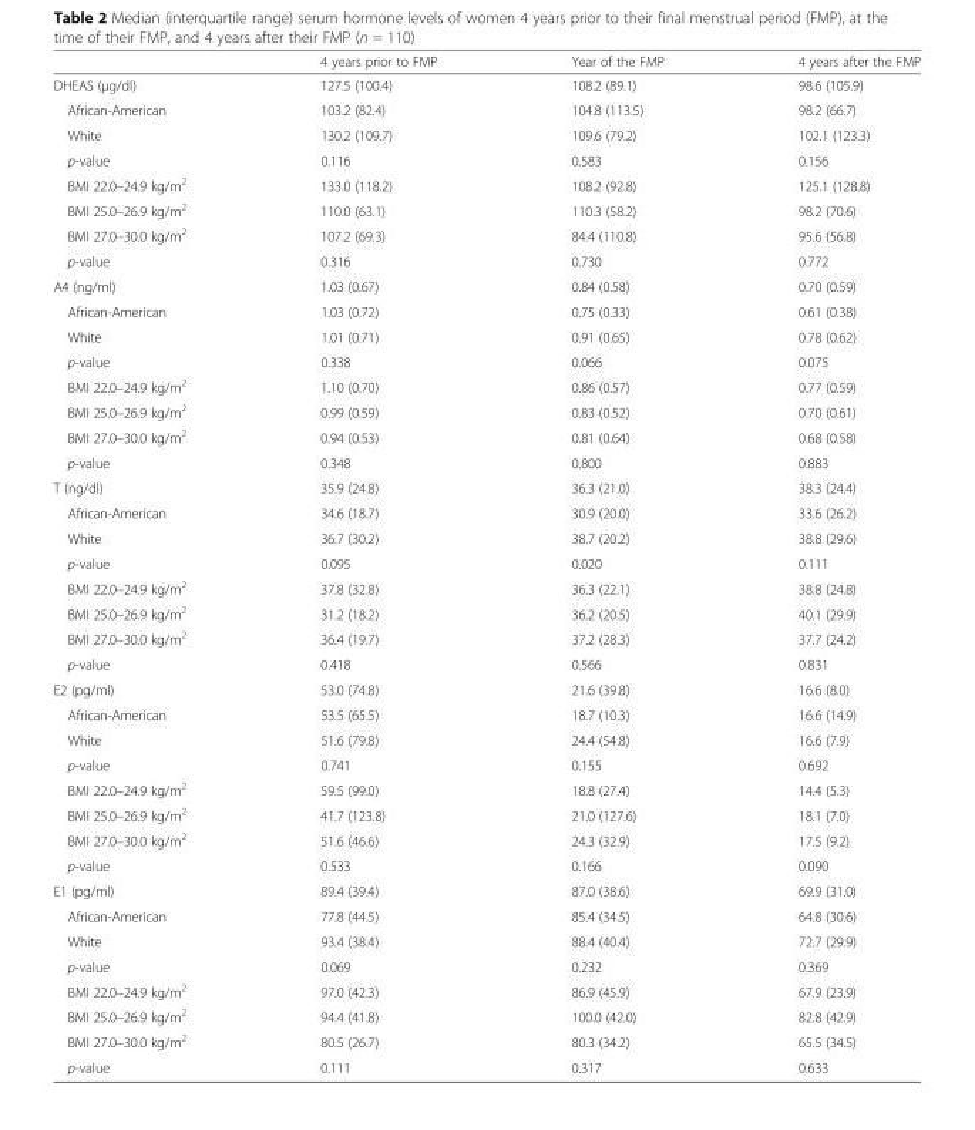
<table><thead><tr><td></td><td>4 years prior to FMP</td><td>Year of the FMP</td><td>4 years after the FMP</td></tr></thead><tbody><tr><td>DHEAS (μg/dl)</td><td>127.5 (100.4)</td><td>108.2 (89.1)</td><td>98.6 (105.9)</td></tr><tr><td>African-American</td><td>103.2 (82.4)</td><td>104.8 (113.5)</td><td>98.2 (66.7)</td></tr><tr><td>White</td><td>130.2 (109.7)</td><td>109.6 (79.2)</td><td>102.1 (123.3)</td></tr><tr><td>p-value</td><td>0.116</td><td>0.583</td><td>0.156</td></tr><tr><td>BMI 22.0–24.9 kg/m<sup>2</sup></td><td>133.0 (118.2)</td><td>108.2 (92.8)</td><td>125.1 (128.8)</td></tr><tr><td>BMI 25.0–26.9 kg/m<sup>2</sup></td><td>110.0 (63.1)</td><td>110.3 (58.2)</td><td>98.2 (70.6)</td></tr><tr><td>BMI 27.0–30.0 kg/m<sup>2</sup></td><td>107.2 (69.3)</td><td>84.4 (110.8)</td><td>95.6 (56.8)</td></tr><tr><td>p-value</td><td>0.316</td><td>0.730</td><td>0.772</td></tr><tr><td>A4 (ng/ml)</td><td>1.03 (0.67)</td><td>0.84 (0.58)</td><td>0.70 (0.59)</td></tr><tr><td>African-American</td><td>1.03 (0.72)</td><td>0.75 (0.33)</td><td>0.61 (0.38)</td></tr><tr><td>White</td><td>1.01 (0.71)</td><td>0.91 (0.65)</td><td>0.78 (0.62)</td></tr><tr><td>p-value</td><td>0.338</td><td>0.066</td><td>0.075</td></tr><tr><td>BMI 22.0–24.9 kg/m<sup>2</sup></td><td>1.10 (0.70)</td><td>0.86 (0.57)</td><td>0.77 (0.59)</td></tr><tr><td>BMI 25.0–26.9 kg/m<sup>2</sup></td><td>0.99 (0.59)</td><td>0.83 (0.52)</td><td>0.70 (0.61)</td></tr><tr><td>BMI 27.0–30.0 kg/m<sup>2</sup></td><td>0.94 (0.53)</td><td>0.81 (0.64)</td><td>0.68 (0.58)</td></tr><tr><td>p-value</td><td>0.348</td><td>0.800</td><td>0.883</td></tr><tr><td>T (ng/dl)</td><td>35.9 (24.8)</td><td>36.3 (21.0)</td><td>38.3 (24.4)</td></tr><tr><td>African-American</td><td>34.6 (18.7)</td><td>30.9 (20.0)</td><td>33.6 (26.2)</td></tr><tr><td>White</td><td>36.7 (30.2)</td><td>38.7 (20.2)</td><td>38.8 (29.6)</td></tr><tr><td>p-value</td><td>0.095</td><td>0.020</td><td>0.111</td></tr><tr><td>BMI 22.0–24.9 kg/m<sup>2</sup></td><td>37.8 (32.8)</td><td>36.3 (22.1)</td><td>38.8 (24.8)</td></tr><tr><td>BMI 25.0–26.9 kg/m<sup>2</sup></td><td>31.2 (18.2)</td><td>36.2 (20.5)</td><td>40.1 (29.9)</td></tr><tr><td>BMI 27.0–30.0 kg/m<sup>2</sup></td><td>36.4 (19.7)</td><td>37.2 (28.3)</td><td>37.7 (24.2)</td></tr><tr><td>p-value</td><td>0.418</td><td>0.566</td><td>0.831</td></tr><tr><td>E2 (pg/ml)</td><td>53.0 (74.8)</td><td>21.6 (39.8)</td><td>16.6 (8.0)</td></tr><tr><td>African-American</td><td>53.5 (65.5)</td><td>18.7 (10.3)</td><td>16.6 (14.9)</td></tr><tr><td>White</td><td>51.6 (79.8)</td><td>24.4 (54.8)</td><td>16.6 (7.9)</td></tr><tr><td>p-value</td><td>0.741</td><td>0.155</td><td>0.692</td></tr><tr><td>BMI 22.0–24.9 kg/m<sup>2</sup></td><td>59.5 (99.0)</td><td>18.8 (27.4)</td><td>14.4 (5.3)</td></tr><tr><td>BMI 25.0–26.9 kg/m<sup>2</sup></td><td>41.7 (123.8)</td><td>21.0 (127.6)</td><td>18.1 (7.0)</td></tr><tr><td>BMI 27.0–30.0 kg/m<sup>2</sup></td><td>51.6 (46.6)</td><td>24.3 (32.9)</td><td>17.5 (9.2)</td></tr><tr><td>p-value</td><td>0.533</td><td>0.166</td><td>0.090</td></tr><tr><td>E1 (pg/ml)</td><td>89.4 (39.4)</td><td>87.0 (38.6)</td><td>69.9 (31.0)</td></tr><tr><td>African-American</td><td>77.8 (44.5)</td><td>85.4 (34.5)</td><td>64.8 (30.6)</td></tr><tr><td>White</td><td>93.4 (38.4)</td><td>88.4 (40.4)</td><td>72.7 (29.9)</td></tr><tr><td>p-value</td><td>0.069</td><td>0.232</td><td>0.369</td></tr><tr><td>BMI 22.0–24.9 kg/m<sup>2</sup></td><td>97.0 (42.3)</td><td>86.9 (45.9)</td><td>67.9 (23.9)</td></tr><tr><td>BMI 25.0–26.9 kg/m<sup>2</sup></td><td>94.4 (41.8)</td><td>100.0 (42.0)</td><td>82.8 (42.9)</td></tr><tr><td>BMI 27.0–30.0 kg/m<sup>2</sup></td><td>80.5 (26.7)</td><td>80.3 (34.2)</td><td>65.5 (34.5)</td></tr><tr><td>p-value</td><td>0.111</td><td>0.317</td><td>0.633</td></tr></tbody></table>